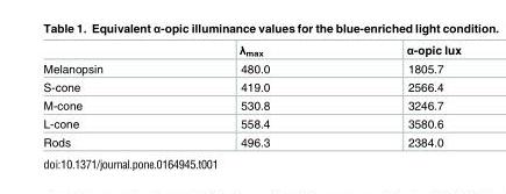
<table><thead><tr><td></td><td>λ<sub>max</sub></td><td>α-opic lux</td></tr></thead><tbody><tr><td>Melanopsin</td><td>480.0</td><td>1805.7</td></tr><tr><td>S-cone</td><td>419.0</td><td>2566.4</td></tr><tr><td>M-cone</td><td>530.8</td><td>3246.7</td></tr><tr><td>L-cone</td><td>558.4</td><td>3580.6</td></tr><tr><td>Rods</td><td>496.3</td><td>2384.0</td></tr></tbody></table>